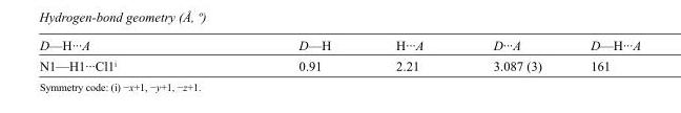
<table><tbody><tr><td>D—H···A</td><td>D—H</td><td>H···A</td><td>D···A</td><td>D—H···A</td></tr><tr><td>N1—H1···Cl1<sup>i</sup></td><td>0.91</td><td>2.21</td><td>3.087 (3)</td><td>161</td></tr></tbody></table>